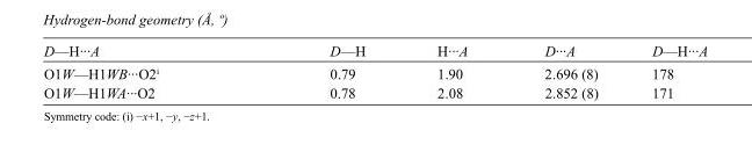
<table><tbody><tr><td>D—H···A</td><td>D—H</td><td>H···A</td><td>D···A</td><td>D—H···A</td></tr><tr><td>O1W—H1WB···O2<sup>i</sup></td><td>0.79</td><td>1.90</td><td>2.696 (8)</td><td>178</td></tr><tr><td>O1W—H1WA···O2</td><td>0.78</td><td>2.08</td><td>2.852 (8)</td><td>171</td></tr></tbody></table>